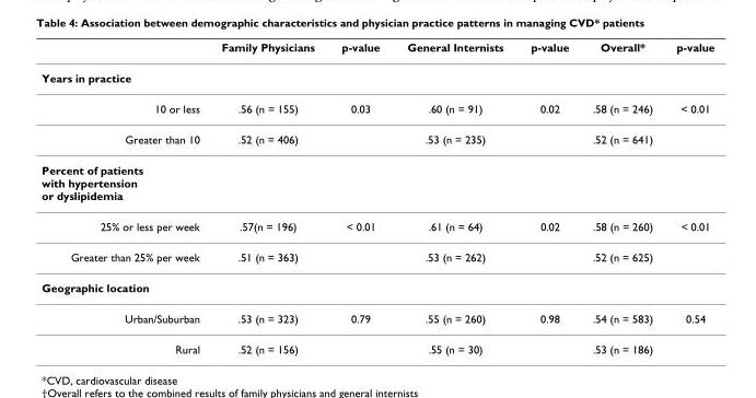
<table><thead><tr><td></td><td>Family Physicians</td><td>p-value</td><td>General Internists</td><td>p-value</td><td>Overall*</td><td>p-value</td></tr></thead><tbody><tr><td colspan="7">Years in practice</td></tr><tr><td>10 or less</td><td>.56 (n = 155)</td><td>0.03</td><td>.60 (n = 91)</td><td>0.02</td><td>.58 (n = 246)</td><td>&lt; 0.01</td></tr><tr><td>Greater than 10</td><td>.52 (n = 406)</td><td></td><td>.53 (n = 235)</td><td></td><td>.52 (n = 641)</td><td></td></tr><tr><td colspan="7">Percent of patients with hypertension or dyslipidemia</td></tr><tr><td>25% or less per week</td><td>.57(n = 196)</td><td>&lt; 0.01</td><td>.61 (n = 64)</td><td>0.02</td><td>.58 (n = 260)</td><td>&lt; 0.01</td></tr><tr><td>Greater than 25% per week</td><td>.51 (n = 363)</td><td></td><td>.53 (n = 262)</td><td></td><td>.52 (n = 625)</td><td></td></tr><tr><td colspan="7">Geographic location</td></tr><tr><td>Urban/Suburban</td><td>.53 (n = 323)</td><td>0.79</td><td>.55 (n = 260)</td><td>0.98</td><td>.54 (n = 583)</td><td>0.54</td></tr><tr><td>Rural</td><td>.52 (n = 156)</td><td></td><td>.55 (n = 30)</td><td></td><td>.53 (n = 186)</td><td></td></tr></tbody></table>